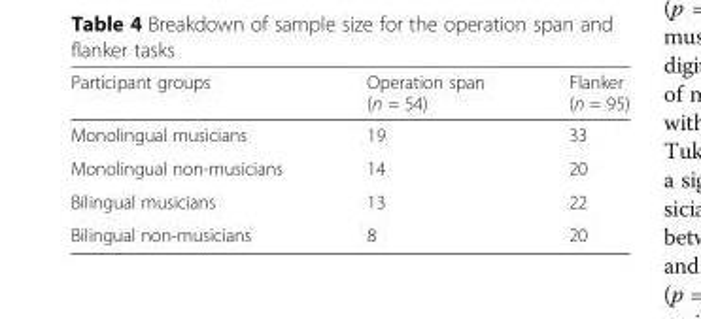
<table><thead><tr><td>Participant groups</td><td>Operation span (n = 54)</td><td>Flanker (n = 95)</td></tr></thead><tbody><tr><td>Monolingual musicians</td><td>19</td><td>33</td></tr><tr><td>Monolingual non-musicians</td><td>14</td><td>20</td></tr><tr><td>Bilingual musicians</td><td>13</td><td>22</td></tr><tr><td>Bilingual non-musicians</td><td>8</td><td>20</td></tr></tbody></table>